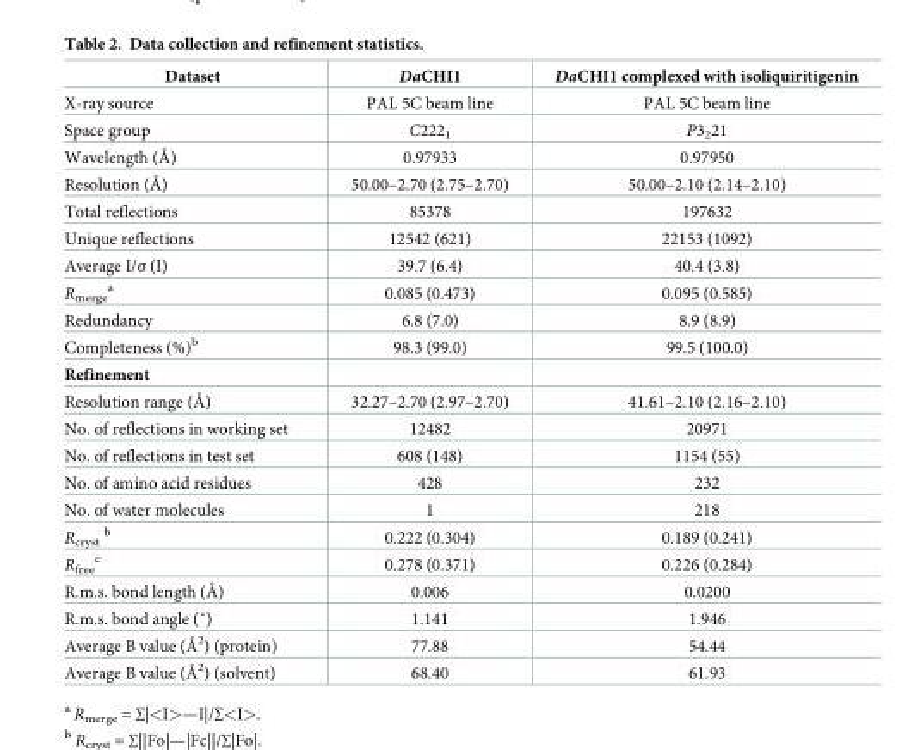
<table><thead><tr><td>Dataset</td><td>DaCHI1</td><td>DaCHI1 complexed with isoliquiritigenin</td></tr></thead><tbody><tr><td>X-ray source</td><td>PAL 5C beam line</td><td>PAL 5C beam line</td></tr><tr><td>Space group</td><td>C222<sub>1</sub></td><td>P3<sub>2</sub>21</td></tr><tr><td>Wavelength (Å)</td><td>0.97933</td><td>0.97950</td></tr><tr><td>Resolution (Å)</td><td>50.00–2.70 (2.75–2.70)</td><td>50.00–2.10 (2.14–2.10)</td></tr><tr><td>Total reflections</td><td>85378</td><td>197632</td></tr><tr><td>Unique reflections</td><td>12542 (621)</td><td>22153 (1092)</td></tr><tr><td>Average I/σ (I)</td><td>39.7 (6.4)</td><td>40.4 (3.8)</td></tr><tr><td>R<sub>merge</sub> <sup>a</sup></td><td>0.085 (0.473)</td><td>0.095 (0.585)</td></tr><tr><td>Redundancy</td><td>6.8 (7.0)</td><td>8.9 (8.9)</td></tr><tr><td>Completeness (%)<sup>b</sup></td><td>98.3 (99.0)</td><td>99.5 (100.0)</td></tr><tr><td colspan="3">Refinement</td></tr><tr><td>Resolution range (Å)</td><td>32.27–2.70 (2.97–2.70)</td><td>41.61–2.10 (2.16–2.10)</td></tr><tr><td>No. of reflections in working set</td><td>12482</td><td>20971</td></tr><tr><td>No. of reflections in test set</td><td>608 (148)</td><td>1154 (55)</td></tr><tr><td>No. of amino acid residues</td><td>428</td><td>232</td></tr><tr><td>No. of water molecules</td><td>1</td><td>218</td></tr><tr><td>R<sub>cryst</sub> <sup>b</sup></td><td>0.222 (0.304)</td><td>0.189 (0.241)</td></tr><tr><td>R<sub>free</sub> <sup>c</sup></td><td>0.278 (0.371)</td><td>0.226 (0.284)</td></tr><tr><td>R.m.s. bond length (Å)</td><td>0.006</td><td>0.0200</td></tr><tr><td>R.m.s. bond angle (˚)</td><td>1.141</td><td>1.946</td></tr><tr><td>Average B value (Å<sup>2</sup>) (protein)</td><td>77.88</td><td>54.44</td></tr><tr><td>Average B value (Å<sup>2</sup>) (solvent)</td><td>68.40</td><td>61.93</td></tr></tbody></table>